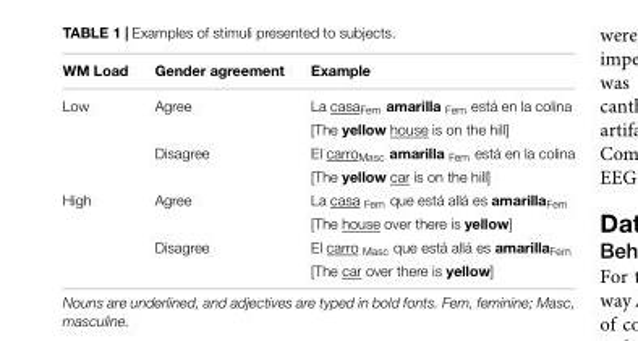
<table><thead><tr><td>WM Load</td><td>Gender agreement</td><td>Example</td></tr></thead><tbody><tr><td rowspan="4">Low</td><td>Agree</td><td>La casa<sub>Fem</sub> amarilla <sub>Fem</sub> está en la colina</td></tr><tr><td></td><td>[The yellow house is on the hill]</td></tr><tr><td>Disagree</td><td>El carro<sub>Masc</sub> amarilla <sub>Fem</sub> está en la colina</td></tr><tr><td></td><td>[The yellow car is on the hill]</td></tr><tr><td rowspan="4">High</td><td>Agree</td><td>La casa <sub>Fem</sub> que está allá es amarilla<sub>Fem</sub></td></tr><tr><td></td><td>[The house over there is yellow]</td></tr><tr><td>Disagree</td><td>El carro <sub>Masc</sub> que está allá es amarilla<sub>Fem</sub></td></tr><tr><td></td><td>[The car over there is yellow]</td></tr></tbody></table>